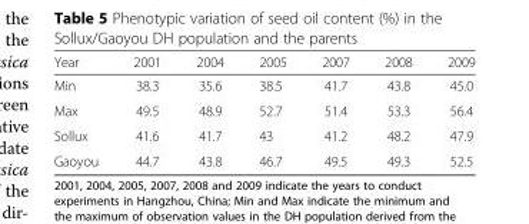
<table><thead><tr><td>Year</td><td>2001</td><td>2004</td><td>2005</td><td>2007</td><td>2008</td><td>2009</td></tr></thead><tbody><tr><td>Min</td><td>38.3</td><td>35.6</td><td>38.5</td><td>41.7</td><td>43.8</td><td>45.0</td></tr><tr><td>Max</td><td>49.5</td><td>48.9</td><td>52.7</td><td>51.4</td><td>53.3</td><td>56.4</td></tr><tr><td>Sollux</td><td>41.6</td><td>41.7</td><td>43</td><td>41.2</td><td>48.2</td><td>47.9</td></tr><tr><td>Gaoyou</td><td>44.7</td><td>43.8</td><td>46.7</td><td>49.5</td><td>49.3</td><td>52.5</td></tr></tbody></table>